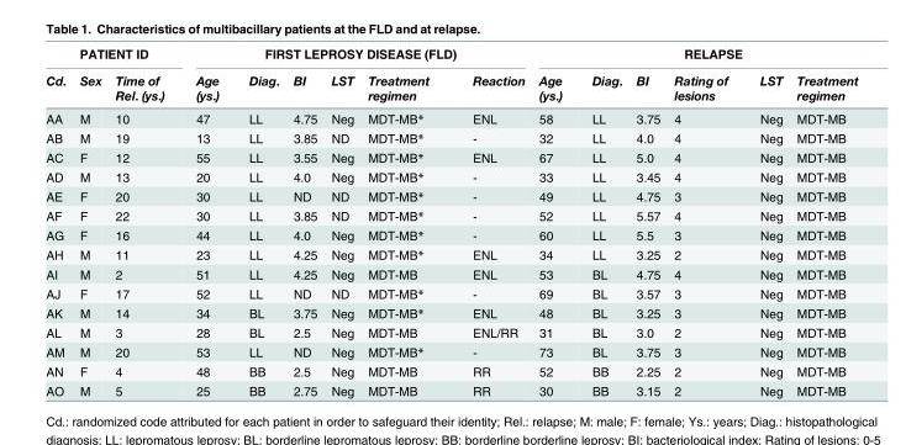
<table><thead><tr><td colspan="3">PATIENT ID</td><td colspan="6">FIRST LEPROSY DISEASE (FLD)</td><td colspan="6">RELAPSE</td></tr><tr><td>Cd.</td><td>Sex</td><td>Time of Rel. (ys.)</td><td>Age (ys.)</td><td>Diag.</td><td>BI</td><td>LST</td><td>Treatment regimen</td><td>Reaction</td><td>Age (ys.)</td><td>Diag.</td><td>BI</td><td>Rating of lesions</td><td>LST</td><td>Treatment regimen</td></tr></thead><tbody><tr><td>AA</td><td>M</td><td>10</td><td>47</td><td>LL</td><td>4.75</td><td>Neg</td><td>MDT-MB*</td><td>ENL</td><td>58</td><td>LL</td><td>3.75</td><td>4</td><td>Neg</td><td>MDT-MB</td></tr><tr><td>AB</td><td>M</td><td>19</td><td>13</td><td>LL</td><td>3.85</td><td>ND</td><td>MDT-MB*</td><td>-</td><td>32</td><td>LL</td><td>4.0</td><td>4</td><td>Neg</td><td>MDT-MB</td></tr><tr><td>AC</td><td>F</td><td>12</td><td>55</td><td>LL</td><td>3.55</td><td>Neg</td><td>MDT-MB*</td><td>ENL</td><td>67</td><td>LL</td><td>5.0</td><td>4</td><td>Neg</td><td>MDT-MB</td></tr><tr><td>AD</td><td>M</td><td>13</td><td>20</td><td>LL</td><td>4.0</td><td>Neg</td><td>MDT-MB*</td><td>-</td><td>33</td><td>LL</td><td>3.45</td><td>4</td><td>Neg</td><td>MDT-MB</td></tr><tr><td>AE</td><td>F</td><td>20</td><td>30</td><td>LL</td><td>ND</td><td>ND</td><td>MDT-MB*</td><td>-</td><td>49</td><td>LL</td><td>4.75</td><td>3</td><td>Neg</td><td>MDT-MB</td></tr><tr><td>AF</td><td>F</td><td>22</td><td>30</td><td>LL</td><td>3.85</td><td>ND</td><td>MDT-MB*</td><td>-</td><td>52</td><td>LL</td><td>5.57</td><td>4</td><td>Neg</td><td>MDT-MB</td></tr><tr><td>AG</td><td>F</td><td>16</td><td>44</td><td>LL</td><td>4.0</td><td>Neg</td><td>MDT-MB*</td><td>-</td><td>60</td><td>LL</td><td>5.5</td><td>3</td><td>Neg</td><td>MDT-MB</td></tr><tr><td>AH</td><td>M</td><td>11</td><td>23</td><td>LL</td><td>4.25</td><td>Neg</td><td>MDT-MB*</td><td>ENL</td><td>34</td><td>LL</td><td>3.25</td><td>2</td><td>Neg</td><td>MDT-MB</td></tr><tr><td>AI</td><td>M</td><td>2</td><td>51</td><td>LL</td><td>4.25</td><td>Neg</td><td>MDT-MB</td><td>ENL</td><td>53</td><td>BL</td><td>4.75</td><td>4</td><td>Neg</td><td>MDT-MB</td></tr><tr><td>AJ</td><td>F</td><td>17</td><td>52</td><td>LL</td><td>ND</td><td>ND</td><td>MDT-MB*</td><td>-</td><td>69</td><td>BL</td><td>3.57</td><td>3</td><td>Neg</td><td>MDT-MB</td></tr><tr><td>AK</td><td>M</td><td>14</td><td>34</td><td>BL</td><td>3.75</td><td>Neg</td><td>MDT-MB*</td><td>ENL</td><td>48</td><td>BL</td><td>3.25</td><td>3</td><td>Neg</td><td>MDT-MB</td></tr><tr><td>AL</td><td>M</td><td>3</td><td>28</td><td>BL</td><td>2.5</td><td>Neg</td><td>MDT-MB</td><td>ENL/RR</td><td>31</td><td>BL</td><td>3.0</td><td>2</td><td>Neg</td><td>MDT-MB</td></tr><tr><td>AM</td><td>M</td><td>20</td><td>53</td><td>LL</td><td>ND</td><td>Neg</td><td>MDT-MB*</td><td>-</td><td>73</td><td>BL</td><td>3.75</td><td>3</td><td>Neg</td><td>MDT-MB</td></tr><tr><td>AN</td><td>F</td><td>4</td><td>48</td><td>BB</td><td>2.5</td><td>Neg</td><td>MDT-MB</td><td>RR</td><td>52</td><td>BB</td><td>2.25</td><td>2</td><td>Neg</td><td>MDT-MB</td></tr><tr><td>AO</td><td>M</td><td>5</td><td>25</td><td>BB</td><td>2.75</td><td>Neg</td><td>MDT-MB</td><td>RR</td><td>30</td><td>BB</td><td>3.15</td><td>2</td><td>Neg</td><td>MDT-MB</td></tr></tbody></table>